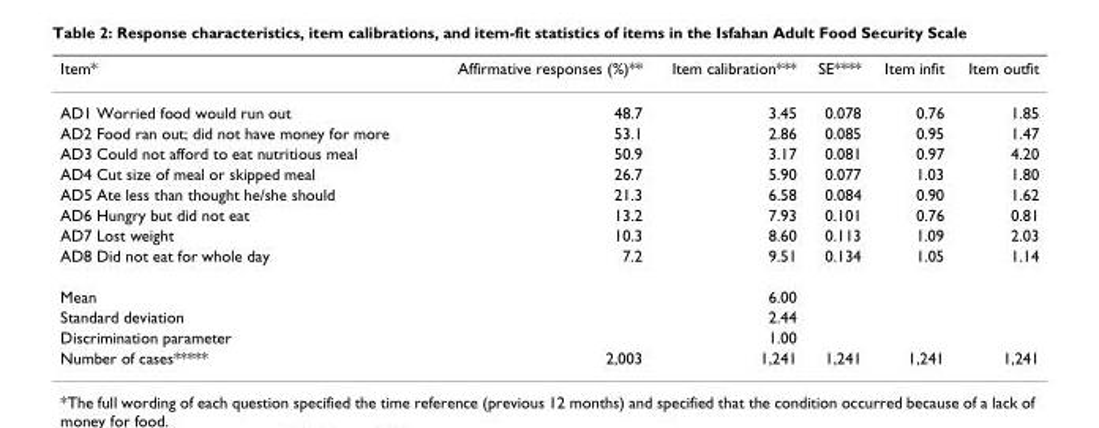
<table><thead><tr><td>Item*</td><td>Affirmative responses (%)**</td><td>Item calibration***</td><td>SE****</td><td>Item infit</td><td>Item outfit</td></tr></thead><tbody><tr><td>AD1 Worried food would run out</td><td>48.7</td><td>3.45</td><td>0.078</td><td>0.76</td><td>1.85</td></tr><tr><td>AD2 Food ran out; did not have money for more</td><td>53.1</td><td>2.86</td><td>0.085</td><td>0.95</td><td>1.47</td></tr><tr><td>AD3 Could not afford to eat nutritious meal</td><td>50.9</td><td>3.17</td><td>0.081</td><td>0.97</td><td>4.20</td></tr><tr><td>AD4 Cut size of meal or skipped meal</td><td>26.7</td><td>5.90</td><td>0.077</td><td>1.03</td><td>1.80</td></tr><tr><td>AD5 Ate less than thought he/she should</td><td>21.3</td><td>6.58</td><td>0.084</td><td>0.90</td><td>1.62</td></tr><tr><td>AD6 Hungry but did not eat</td><td>13.2</td><td>7.93</td><td>0.101</td><td>0.76</td><td>0.81</td></tr><tr><td>AD7 Lost weight</td><td>10.3</td><td>8.60</td><td>0.113</td><td>1.09</td><td>2.03</td></tr><tr><td>AD8 Did not eat for whole day</td><td>7.2</td><td>9.51</td><td>0.134</td><td>1.05</td><td>1.14</td></tr><tr><td>Mean</td><td></td><td>6.00</td><td></td><td></td><td></td></tr><tr><td>Standard deviation</td><td></td><td>2.44</td><td></td><td></td><td></td></tr><tr><td>Discrimination parameter</td><td></td><td>1.00</td><td></td><td></td><td></td></tr><tr><td>Number of cases*****</td><td>2,003</td><td>1,241</td><td>1,241</td><td>1,241</td><td>1,241</td></tr></tbody></table>